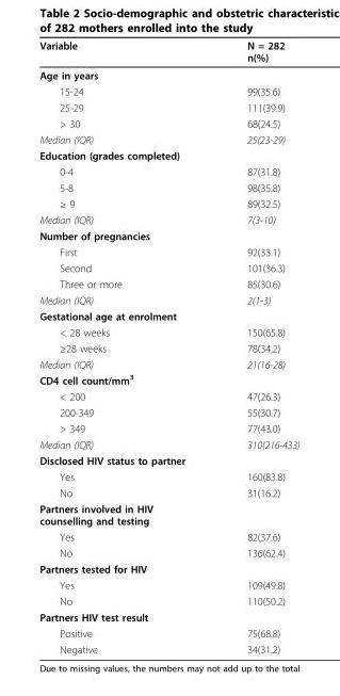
<table><thead><tr><td>Variable</td><td>N = 282 n(%)</td></tr></thead><tbody><tr><td colspan="2">Age in years</td></tr><tr><td>15-24</td><td>99(35.6)</td></tr><tr><td>25-29</td><td>111(39.9)</td></tr><tr><td>&gt; 30</td><td>68(24.5)</td></tr><tr><td>Median (IQR)</td><td>25(23-29)</td></tr><tr><td colspan="2">Education (grades completed)</td></tr><tr><td>0-4</td><td>87(31.8)</td></tr><tr><td>5-8</td><td>98(35.8)</td></tr><tr><td>≥ 9</td><td>89(32.5)</td></tr><tr><td>Median (IQR)</td><td>7(3-10)</td></tr><tr><td colspan="2">Number of pregnancies</td></tr><tr><td>First</td><td>92(33.1)</td></tr><tr><td>Second</td><td>101(36.3)</td></tr><tr><td>Three or more</td><td>85(30.6)</td></tr><tr><td>Median (IQR)</td><td>2(1-3)</td></tr><tr><td colspan="2">Gestational age at enrolment</td></tr><tr><td>&lt; 28 weeks</td><td>150(65.8)</td></tr><tr><td>≥28 weeks</td><td>78(34.2)</td></tr><tr><td>Median (IQR)</td><td>21(16-28)</td></tr><tr><td colspan="2">CD4 cell count/mm<sup>3</sup></td></tr><tr><td>&lt; 200</td><td>47(26.3)</td></tr><tr><td>200-349</td><td>55(30.7)</td></tr><tr><td>&gt; 349</td><td>77(43.0)</td></tr><tr><td>Median (IQR)</td><td>310(216-433)</td></tr><tr><td colspan="2">Disclosed HIV status to partner</td></tr><tr><td>Yes</td><td>160(83.8)</td></tr><tr><td>No</td><td>31(16.2)</td></tr><tr><td colspan="2">Partners involved in HIV counselling and testing</td></tr><tr><td>Yes</td><td>82(37.6)</td></tr><tr><td>No</td><td>136(62.4)</td></tr><tr><td colspan="2">Partners tested for HIV</td></tr><tr><td>Yes</td><td>109(49.8)</td></tr><tr><td>No</td><td>110(50.2)</td></tr><tr><td colspan="2">Partners HIV test result</td></tr><tr><td>Positive</td><td>75(68.8)</td></tr><tr><td>Negative</td><td>34(31.2)</td></tr></tbody></table>